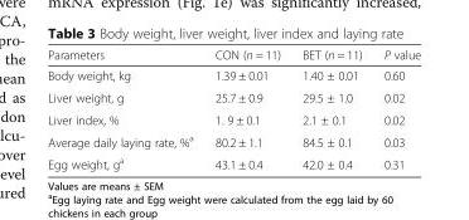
<table><thead><tr><td>Parameters</td><td>CON (n = 11)</td><td>BET (n = 11)</td><td>P value</td></tr></thead><tbody><tr><td>Body weight, kg</td><td>1.39 ± 0.01</td><td>1.40 ± 0.01</td><td>0.60</td></tr><tr><td>Liver weight, g</td><td>25.7 ± 0.9</td><td>29.5 ± 1.0</td><td>0.02</td></tr><tr><td>Liver index, %</td><td>1. 9 ± 0.1</td><td>2.1 ± 0.1</td><td>0.02</td></tr><tr><td>Average daily laying rate, %<sup>a</sup></td><td>80.2 ± 1.1</td><td>84.5 ± 0.1</td><td>0.03</td></tr><tr><td>Egg weight, g<sup>a</sup></td><td>43.1 ± 0.4</td><td>42.0 ± 0.4</td><td>0.31</td></tr></tbody></table>